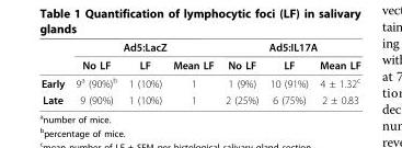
<table><thead><tr><td rowspan="2"></td><td colspan="3">Ad5:LacZ</td><td colspan="3">Ad5:IL17A</td></tr><tr><td>No LF</td><td>LF</td><td>Mean LF</td><td>No LF</td><td>LF</td><td>Mean LF</td></tr></thead><tbody><tr><td>Early</td><td>9<sup>a</sup> (90%)<sup>b</sup></td><td>1 (10%)</td><td>1</td><td>1 (9%)</td><td>10 (91%)</td><td>4 ± 1.32<sup>c</sup></td></tr><tr><td>Late</td><td>9 (90%)</td><td>1 (10%)</td><td>1</td><td>2 (25%)</td><td>6 (75%)</td><td>2 ± 0.83</td></tr></tbody></table>